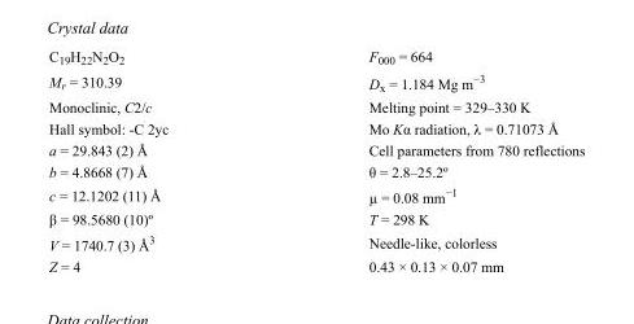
<table><tbody><tr><td>C<sub>19</sub>H<sub>22</sub>N<sub>2</sub>O<sub>2</sub></td><td>F000 = 664</td></tr><tr><td>M<sub>r</sub> = 310.39</td><td>D<sub>x</sub> = 1.184 Mg m<sup>−3</sup></td></tr><tr><td>Monoclinic, C2/c</td><td>Melting point = 329–330 K</td></tr><tr><td>Hall symbol: -C 2yc</td><td>Mo Kα radiation, λ = 0.71073 Å</td></tr><tr><td>a = 29.843 (2) Å</td><td>Cell parameters from 780 reflections</td></tr><tr><td>b = 4.8668 (7) Å</td><td>θ = 2.8–25.2º</td></tr><tr><td>c = 12.1202 (11) Å</td><td>µ = 0.08 mm<sup>−1</sup></td></tr><tr><td>β = 98.5680 (10)º</td><td>T = 298 K</td></tr><tr><td>V = 1740.7 (3) Å<sup>3</sup></td><td>Needle-like, colorless</td></tr><tr><td>Z = 4</td><td>0.43 × 0.13 × 0.07 mm</td></tr></tbody></table>